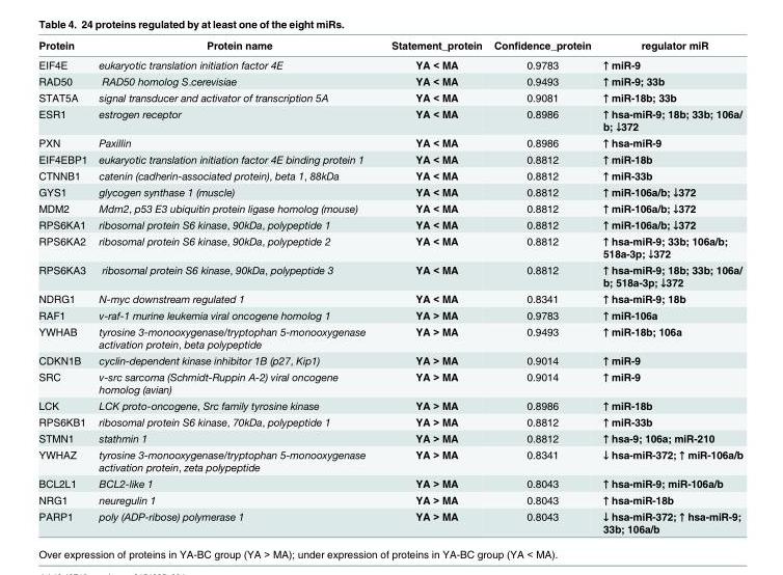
<table><thead><tr><td>Protein</td><td>Protein name</td><td>Statement_protein</td><td>Confidence_protein</td><td>regulator miR</td></tr></thead><tbody><tr><td>EIF4E</td><td>eukaryotic translation initiation factor 4E</td><td>YA &lt; MA</td><td>0.9783</td><td>↑ miR-9</td></tr><tr><td>RAD50</td><td>RAD50 homolog S.cerevisiae</td><td>YA &lt; MA</td><td>0.9493</td><td>↑ miR-9; 33b</td></tr><tr><td>STAT5A</td><td>signal transducer and activator of transcription 5A</td><td>YA &lt; MA</td><td>0.9081</td><td>↑ miR-18b; 33b</td></tr><tr><td>ESR1</td><td>estrogen receptor</td><td>YA &lt; MA</td><td>0.8986</td><td>↑ hsa-miR-9; 18b; 33b; 106a/ b; ↓372</td></tr><tr><td>PXN</td><td>Paxillin</td><td>YA &lt; MA</td><td>0.8986</td><td>↑ hsa-miR-9</td></tr><tr><td>EIF4EBP1</td><td>eukaryotic translation initiation factor 4E binding protein 1</td><td>YA &lt; MA</td><td>0.8812</td><td>↑ miR-18b</td></tr><tr><td>CTNNB1</td><td>catenin (cadherin-associated protein), beta 1, 88kDa</td><td>YA &lt; MA</td><td>0.8812</td><td>↑ miR-33b</td></tr><tr><td>GYS1</td><td>glycogen synthase 1 (muscle)</td><td>YA &lt; MA</td><td>0.8812</td><td>↑ miR-106a/b; ↓372</td></tr><tr><td>MDM2</td><td>Mdm2, p53 E3 ubiquitin protein ligase homolog (mouse)</td><td>YA &lt; MA</td><td>0.8812</td><td>↑ miR-106a/b; ↓372</td></tr><tr><td>RPS6KA1</td><td>ribosomal protein S6 kinase, 90kDa, polypeptide 1</td><td>YA &lt; MA</td><td>0.8812</td><td>↑ miR-106a/b; ↓372</td></tr><tr><td>RPS6KA2</td><td>ribosomal protein S6 kinase, 90kDa, polypeptide 2</td><td>YA &lt; MA</td><td>0.8812</td><td>↑ hsa-miR-9; 33b; 106a/b; 518a-3p; ↓372</td></tr><tr><td>RPS6KA3</td><td>ribosomal protein S6 kinase, 90kDa, polypeptide 3</td><td>YA &lt; MA</td><td>0.8812</td><td>↑ hsa-miR-9; 18b; 33b; 106a/ b; 518a-3p; ↓372</td></tr><tr><td>NDRG1</td><td>N-myc downstream regulated 1</td><td>YA &lt; MA</td><td>0.8341</td><td>↑ hsa-miR-9; 18b</td></tr><tr><td>RAF1</td><td>v-raf-1 murine leukemia viral oncogene homolog 1</td><td>YA &gt; MA</td><td>0.9783</td><td>↑ miR-106a</td></tr><tr><td>YWHAB</td><td>tyrosine 3-monooxygenase/tryptophan 5-monooxygenase activation protein, beta polypeptide</td><td>YA &gt; MA</td><td>0.9493</td><td>↑ miR-18b; 106a</td></tr><tr><td>CDKN1B</td><td>cyclin-dependent kinase inhibitor 1B (p27, Kip1)</td><td>YA &gt; MA</td><td>0.9014</td><td>↑ miR-9</td></tr><tr><td>SRC</td><td>v-src sarcoma (Schmidt-Ruppin A-2) viral oncogene homolog (avian)</td><td>YA &gt; MA</td><td>0.9014</td><td>↑ miR-9</td></tr><tr><td>LCK</td><td>LCK proto-oncogene, Src family tyrosine kinase</td><td>YA &gt; MA</td><td>0.8986</td><td>↑ miR-18b</td></tr><tr><td>RPS6KB1</td><td>ribosomal protein S6 kinase, 70kDa, polypeptide 1</td><td>YA &gt; MA</td><td>0.8812</td><td>↑ miR-33b</td></tr><tr><td>STMN1</td><td>stathmin 1</td><td>YA &gt; MA</td><td>0.8812</td><td>↑ hsa-9; 106a; miR-210</td></tr><tr><td>YWHAZ</td><td>tyrosine 3-monooxygenase/tryptophan 5-monooxygenase activation protein, zeta polypeptide</td><td>YA &gt; MA</td><td>0.8341</td><td>↓ hsa-miR-372; ↑ miR-106a/b</td></tr><tr><td>BCL2L1</td><td>BCL2-like 1</td><td>YA &gt; MA</td><td>0.8043</td><td>↑ hsa-miR-9; miR-106a/b</td></tr><tr><td>NRG1</td><td>neuregulin 1</td><td>YA &gt; MA</td><td>0.8043</td><td>↑ hsa-miR-18b</td></tr><tr><td>PARP1</td><td>poly (ADP-ribose) polymerase 1</td><td>YA &gt; MA</td><td>0.8043</td><td>↓ hsa-miR-372; ↑ hsa-miR-9; 33b; 106a/b</td></tr></tbody></table>